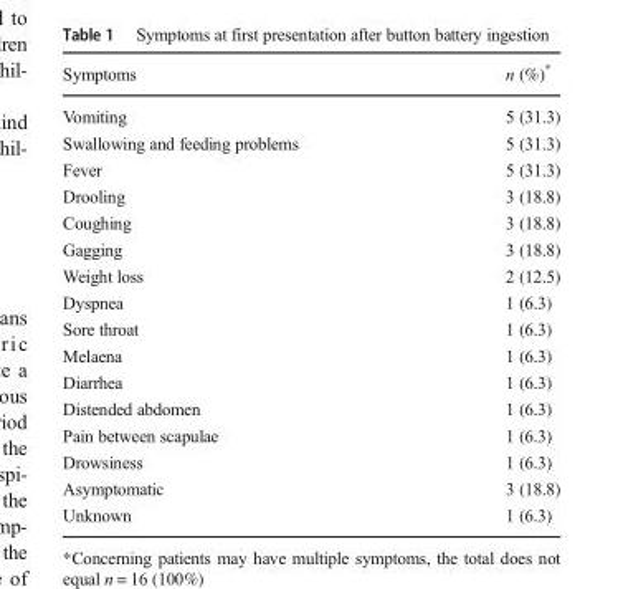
<table><thead><tr><td>Symptoms</td><td>n (%)*</td></tr></thead><tbody><tr><td>Vomiting</td><td>5 (31.3)</td></tr><tr><td>Swallowing and feeding problems</td><td>5 (31.3)</td></tr><tr><td>Fever</td><td>5 (31.3)</td></tr><tr><td>Drooling</td><td>3 (18.8)</td></tr><tr><td>Coughing</td><td>3 (18.8)</td></tr><tr><td>Gagging</td><td>3 (18.8)</td></tr><tr><td>Weight loss</td><td>2 (12.5)</td></tr><tr><td>Dyspnea</td><td>1 (6.3)</td></tr><tr><td>Sore throat</td><td>1 (6.3)</td></tr><tr><td>Melaena</td><td>1 (6.3)</td></tr><tr><td>Diarrhea</td><td>1 (6.3)</td></tr><tr><td>Distended abdomen</td><td>1 (6.3)</td></tr><tr><td>Pain between scapulae</td><td>1 (6.3)</td></tr><tr><td>Drowsiness</td><td>1 (6.3)</td></tr><tr><td>Asymptomatic</td><td>3 (18.8)</td></tr><tr><td>Unknown</td><td>1 (6.3)</td></tr></tbody></table>